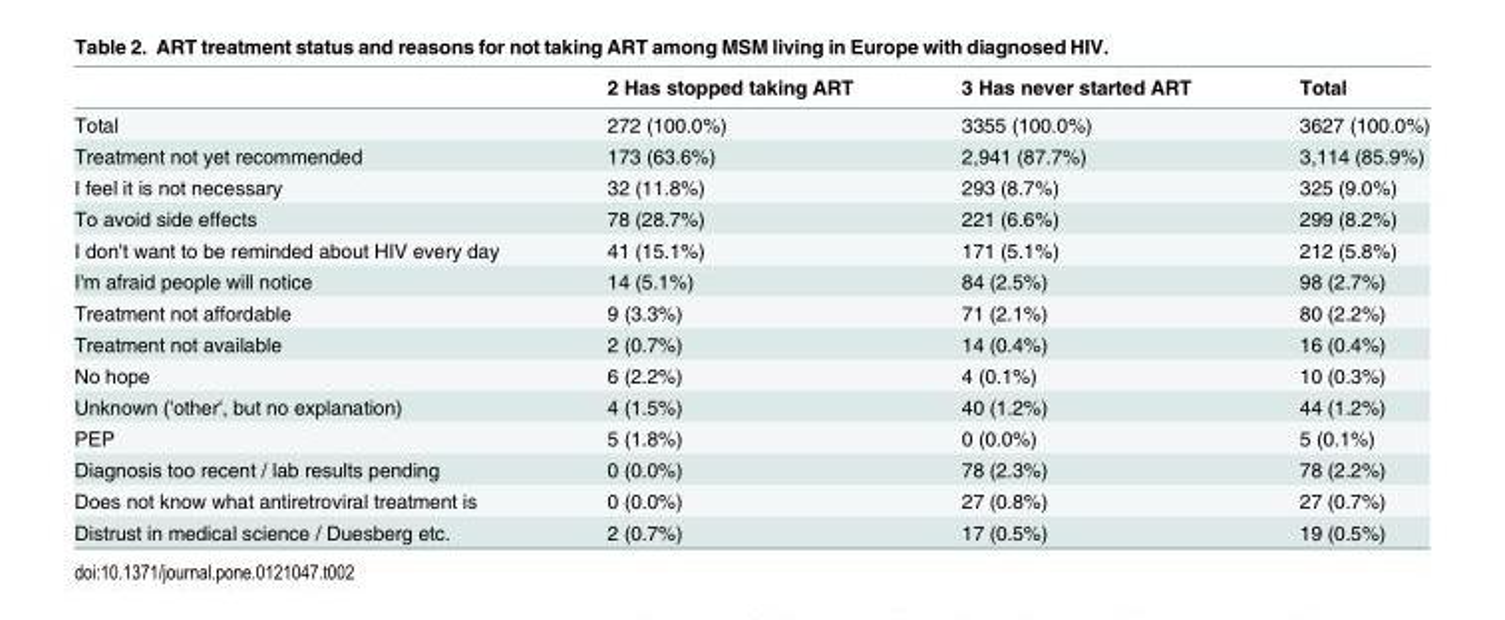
<table><thead><tr><td></td><td>2 Has stopped taking ART</td><td>3 Has never started ART</td><td>Total</td></tr></thead><tbody><tr><td>Total</td><td>272 (100.0%)</td><td>3355 (100.0%)</td><td>3627 (100.0%)</td></tr><tr><td>Treatment not yet recommended</td><td>173 (63.6%)</td><td>2,941 (87.7%)</td><td>3,114 (85.9%)</td></tr><tr><td>I feel it is not necessary</td><td>32 (11.8%)</td><td>293 (8.7%)</td><td>325 (9.0%)</td></tr><tr><td>To avoid side effects</td><td>78 (28.7%)</td><td>221 (6.6%)</td><td>299 (8.2%)</td></tr><tr><td>I don&#x27;t want to be reminded about HIV every day</td><td>41 (15.1%)</td><td>171 (5.1%)</td><td>212 (5.8%)</td></tr><tr><td>I&#x27;m afraid people will notice</td><td>14 (5.1%)</td><td>84 (2.5%)</td><td>98 (2.7%)</td></tr><tr><td>Treatment not affordable</td><td>9 (3.3%)</td><td>71 (2.1%)</td><td>80 (2.2%)</td></tr><tr><td>Treatment not available</td><td>2 (0.7%)</td><td>14 (0.4%)</td><td>16 (0.4%)</td></tr><tr><td>No hope</td><td>6 (2.2%)</td><td>4 (0.1%)</td><td>10 (0.3%)</td></tr><tr><td>Unknown (&#x27;other&#x27;, but no explanation)</td><td>4 (1.5%)</td><td>40 (1.2%)</td><td>44 (1.2%)</td></tr><tr><td>PEP</td><td>5 (1.8%)</td><td>0 (0.0%)</td><td>5 (0.1%)</td></tr><tr><td>Diagnosis too recent / lab results pending</td><td>0 (0.0%)</td><td>78 (2.3%)</td><td>78 (2.2%)</td></tr><tr><td>Does not know what antiretroviral treatment is</td><td>0 (0.0%)</td><td>27 (0.8%)</td><td>27 (0.7%)</td></tr><tr><td>Distrust in medical science / Duesberg etc.</td><td>2 (0.7%)</td><td>17 (0.5%)</td><td>19 (0.5%)</td></tr></tbody></table>